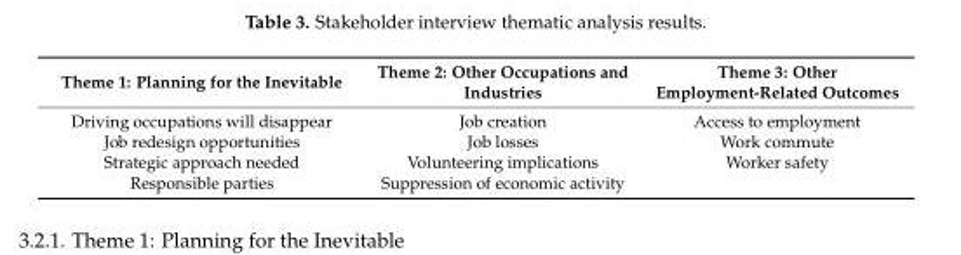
<table><thead><tr><td>Theme 1: Planning for the Inevitable</td><td>Theme 2: Other Occupations and Industries</td><td>Theme 3: Other Employment-Related Outcomes</td></tr></thead><tbody><tr><td>Driving occupations will disappear</td><td>Job creation</td><td>Access to employment</td></tr><tr><td>Job redesign opportunities</td><td>Job losses</td><td>Work commute</td></tr><tr><td>Strategic approach needed</td><td>Volunteering implications</td><td>Worker safety</td></tr><tr><td>Responsible parties</td><td>Suppression of economic activity</td><td></td></tr></tbody></table>